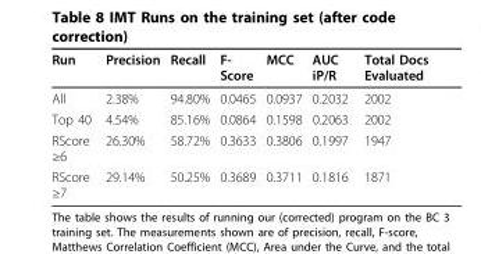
<table><thead><tr><td>Run</td><td>Precision</td><td>Recall</td><td>F- Score</td><td>MCC</td><td>AUC iP/R</td><td>Total Docs Evaluated</td></tr></thead><tbody><tr><td>All</td><td>2.38%</td><td>94.80%</td><td>0.0465</td><td>0.0937</td><td>0.2032</td><td>2002</td></tr><tr><td>Top 40</td><td>4.54%</td><td>85.16%</td><td>0.0864</td><td>0.1598</td><td>0.2063</td><td>2002</td></tr><tr><td>RScore ≥6</td><td>26.30%</td><td>58.72%</td><td>0.3633</td><td>0.3806</td><td>0.1997</td><td>1947</td></tr><tr><td>RScore ≥7</td><td>29.14%</td><td>50.25%</td><td>0.3689</td><td>0.3711</td><td>0.1816</td><td>1871</td></tr></tbody></table>